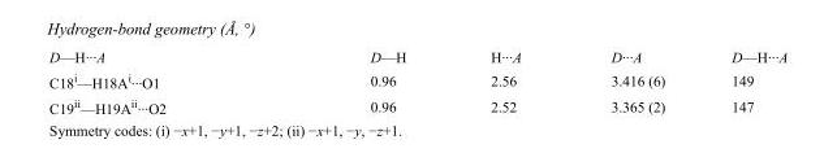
<table><tbody><tr><td>D—H···A</td><td>D—H</td><td>H···A</td><td>D···A</td><td>D—H···A</td></tr><tr><td>C18<sup>i</sup>—H18A<sup>i</sup>···O1</td><td>0.96</td><td>2.56</td><td>3.416 (6)</td><td>149</td></tr><tr><td>C19<sup>ii</sup>—H19A<sup>ii</sup>···O2</td><td>0.96</td><td>2.52</td><td>3.365 (2)</td><td>147</td></tr></tbody></table>